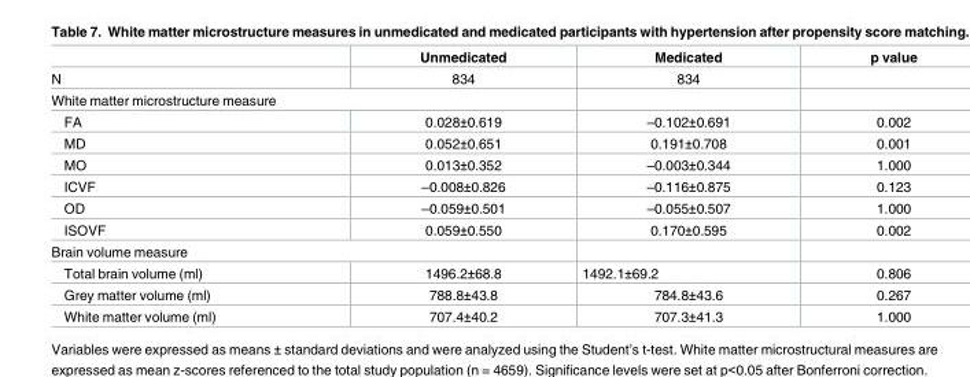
<table><thead><tr><td></td><td>Unmedicated</td><td>Medicated</td><td>p value</td></tr></thead><tbody><tr><td>N</td><td>834</td><td>834</td><td></td></tr><tr><td colspan="4">White matter microstructure measure</td></tr><tr><td>FA</td><td>0.028±0.619</td><td>–0.102±0.691</td><td>0.002</td></tr><tr><td>MD</td><td>0.052±0.651</td><td>0.191±0.708</td><td>0.001</td></tr><tr><td>MO</td><td>0.013±0.352</td><td>–0.003±0.344</td><td>1.000</td></tr><tr><td>ICVF</td><td>–0.008±0.826</td><td>–0.116±0.875</td><td>0.123</td></tr><tr><td>OD</td><td>–0.059±0.501</td><td>–0.055±0.507</td><td>1.000</td></tr><tr><td>ISOVF</td><td>0.059±0.550</td><td>0.170±0.595</td><td>0.002</td></tr><tr><td colspan="4">Brain volume measure</td></tr><tr><td>Total brain volume (ml)</td><td>1496.2±68.8</td><td>1492.1±69.2</td><td>0.806</td></tr><tr><td>Grey matter volume (ml)</td><td>788.8±43.8</td><td>784.8±43.6</td><td>0.267</td></tr><tr><td>White matter volume (ml)</td><td>707.4±40.2</td><td>707.3±41.3</td><td>1.000</td></tr></tbody></table>